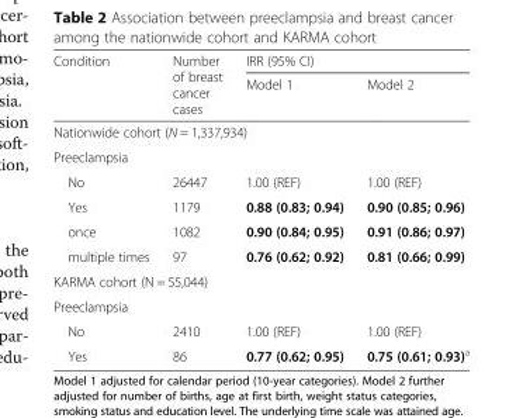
<table><thead><tr><td rowspan="2">Condition</td><td rowspan="2">Number of breast cancer cases</td><td colspan="2">IRR (95% CI)</td></tr><tr><td>Model 1</td><td>Model 2</td></tr></thead><tbody><tr><td colspan="4">Nationwide cohort (N = 1,337,934)</td></tr><tr><td colspan="4">Preeclampsia</td></tr><tr><td>No</td><td>26447</td><td>1.00 (REF)</td><td>1.00 (REF)</td></tr><tr><td>Yes</td><td>1179</td><td>0.88 (0.83; 0.94)</td><td>0.90 (0.85; 0.96)</td></tr><tr><td>once</td><td>1082</td><td>0.90 (0.84; 0.95)</td><td>0.91 (0.86; 0.97)</td></tr><tr><td>multiple times</td><td>97</td><td>0.76 (0.62; 0.92)</td><td>0.81 (0.66; 0.99)</td></tr><tr><td colspan="4">KARMA cohort (N = 55,044)</td></tr><tr><td colspan="4">Preeclampsia</td></tr><tr><td>No</td><td>2410</td><td>1.00 (REF)</td><td>1.00 (REF)</td></tr><tr><td>Yes</td><td>86</td><td>0.77 (0.62; 0.95)</td><td>0.75 (0.61; 0.93)<sup>a</sup></td></tr></tbody></table>